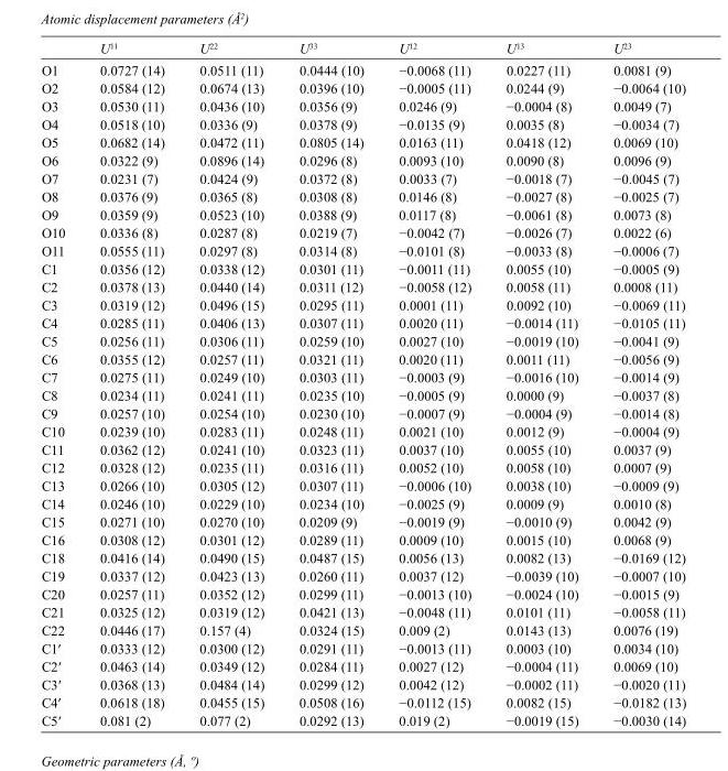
<table><thead><tr><td></td><td>U<sup>11</sup></td><td>U<sup>22</sup></td><td>U<sup>33</sup></td><td>U<sup>12</sup></td><td>U<sup>13</sup></td><td>U<sup>23</sup></td></tr></thead><tbody><tr><td>O1</td><td>0.0727 (14)</td><td>0.0511 (11)</td><td>0.0444 (10)</td><td>−0.0068 (11)</td><td>0.0227 (11)</td><td>0.0081 (9)</td></tr><tr><td>O2</td><td>0.0584 (12)</td><td>0.0674 (13)</td><td>0.0396 (10)</td><td>−0.0005 (11)</td><td>0.0244 (9)</td><td>−0.0064 (10)</td></tr><tr><td>O3</td><td>0.0530 (11)</td><td>0.0436 (10)</td><td>0.0356 (9)</td><td>0.0246 (9)</td><td>−0.0004 (8)</td><td>0.0049 (7)</td></tr><tr><td>O4</td><td>0.0518 (10)</td><td>0.0336 (9)</td><td>0.0378 (9)</td><td>−0.0135 (9)</td><td>0.0035 (8)</td><td>−0.0034 (7)</td></tr><tr><td>O5</td><td>0.0682 (14)</td><td>0.0472 (11)</td><td>0.0805 (14)</td><td>0.0163 (11)</td><td>0.0418 (12)</td><td>0.0069 (10)</td></tr><tr><td>O6</td><td>0.0322 (9)</td><td>0.0896 (14)</td><td>0.0296 (8)</td><td>0.0093 (10)</td><td>0.0090 (8)</td><td>0.0096 (9)</td></tr><tr><td>O7</td><td>0.0231 (7)</td><td>0.0424 (9)</td><td>0.0372 (8)</td><td>0.0033 (7)</td><td>−0.0018 (7)</td><td>−0.0045 (7)</td></tr><tr><td>O8</td><td>0.0376 (9)</td><td>0.0365 (8)</td><td>0.0308 (8)</td><td>0.0146 (8)</td><td>−0.0027 (8)</td><td>−0.0025 (7)</td></tr><tr><td>O9</td><td>0.0359 (9)</td><td>0.0523 (10)</td><td>0.0388 (9)</td><td>0.0117 (8)</td><td>−0.0061 (8)</td><td>0.0073 (8)</td></tr><tr><td>O10</td><td>0.0336 (8)</td><td>0.0287 (8)</td><td>0.0219 (7)</td><td>−0.0042 (7)</td><td>−0.0026 (7)</td><td>0.0022 (6)</td></tr><tr><td>O11</td><td>0.0555 (11)</td><td>0.0297 (8)</td><td>0.0314 (8)</td><td>−0.0101 (8)</td><td>−0.0033 (8)</td><td>−0.0006 (7)</td></tr><tr><td>C1</td><td>0.0356 (12)</td><td>0.0338 (12)</td><td>0.0301 (11)</td><td>−0.0011 (11)</td><td>0.0055 (10)</td><td>−0.0005 (9)</td></tr><tr><td>C2</td><td>0.0378 (13)</td><td>0.0440 (14)</td><td>0.0311 (12)</td><td>−0.0058 (12)</td><td>0.0058 (11)</td><td>0.0008 (11)</td></tr><tr><td>C3</td><td>0.0319 (12)</td><td>0.0496 (15)</td><td>0.0295 (11)</td><td>0.0001 (11)</td><td>0.0092 (10)</td><td>−0.0069 (11)</td></tr><tr><td>C4</td><td>0.0285 (11)</td><td>0.0406 (13)</td><td>0.0307 (11)</td><td>0.0020 (11)</td><td>−0.0014 (11)</td><td>−0.0105 (11)</td></tr><tr><td>C5</td><td>0.0256 (11)</td><td>0.0306 (11)</td><td>0.0259 (10)</td><td>0.0027 (10)</td><td>−0.0019 (10)</td><td>−0.0041 (9)</td></tr><tr><td>C6</td><td>0.0355 (12)</td><td>0.0257 (11)</td><td>0.0321 (11)</td><td>0.0020 (11)</td><td>0.0011 (11)</td><td>−0.0056 (9)</td></tr><tr><td>C7</td><td>0.0275 (11)</td><td>0.0249 (10)</td><td>0.0303 (11)</td><td>−0.0003 (9)</td><td>−0.0016 (10)</td><td>−0.0014 (9)</td></tr><tr><td>C8</td><td>0.0234 (11)</td><td>0.0241 (11)</td><td>0.0235 (10)</td><td>−0.0005 (9)</td><td>0.0000 (9)</td><td>−0.0037 (8)</td></tr><tr><td>C9</td><td>0.0257 (10)</td><td>0.0254 (10)</td><td>0.0230 (10)</td><td>−0.0007 (9)</td><td>−0.0004 (9)</td><td>−0.0014 (8)</td></tr><tr><td>C10</td><td>0.0239 (10)</td><td>0.0283 (11)</td><td>0.0248 (11)</td><td>0.0021 (10)</td><td>0.0012 (9)</td><td>−0.0004 (9)</td></tr><tr><td>C11</td><td>0.0362 (12)</td><td>0.0241 (10)</td><td>0.0323 (11)</td><td>0.0037 (10)</td><td>0.0055 (10)</td><td>0.0037 (9)</td></tr><tr><td>C12</td><td>0.0328 (12)</td><td>0.0235 (11)</td><td>0.0316 (11)</td><td>0.0052 (10)</td><td>0.0058 (10)</td><td>0.0007 (9)</td></tr><tr><td>C13</td><td>0.0266 (10)</td><td>0.0305 (12)</td><td>0.0307 (11)</td><td>−0.0006 (10)</td><td>0.0038 (10)</td><td>−0.0009 (9)</td></tr><tr><td>C14</td><td>0.0246 (10)</td><td>0.0229 (10)</td><td>0.0234 (10)</td><td>−0.0025 (9)</td><td>0.0009 (9)</td><td>0.0010 (8)</td></tr><tr><td>C15</td><td>0.0271 (10)</td><td>0.0270 (10)</td><td>0.0209 (9)</td><td>−0.0019 (9)</td><td>−0.0010 (9)</td><td>0.0042 (9)</td></tr><tr><td>C16</td><td>0.0308 (12)</td><td>0.0301 (12)</td><td>0.0289 (11)</td><td>0.0009 (10)</td><td>0.0015 (10)</td><td>0.0068 (9)</td></tr><tr><td>C18</td><td>0.0416 (14)</td><td>0.0490 (15)</td><td>0.0487 (15)</td><td>0.0056 (13)</td><td>0.0082 (13)</td><td>−0.0169 (12)</td></tr><tr><td>C19</td><td>0.0337 (12)</td><td>0.0423 (13)</td><td>0.0260 (11)</td><td>0.0037 (12)</td><td>−0.0039 (10)</td><td>−0.0007 (10)</td></tr><tr><td>C20</td><td>0.0257 (11)</td><td>0.0352 (12)</td><td>0.0299 (11)</td><td>−0.0013 (10)</td><td>−0.0024 (10)</td><td>−0.0015 (9)</td></tr><tr><td>C21</td><td>0.0325 (12)</td><td>0.0319 (12)</td><td>0.0421 (13)</td><td>−0.0048 (11)</td><td>0.0101 (11)</td><td>−0.0058 (11)</td></tr><tr><td>C22</td><td>0.0446 (17)</td><td>0.157 (4)</td><td>0.0324 (15)</td><td>0.009 (2)</td><td>0.0143 (13)</td><td>0.0076 (19)</td></tr><tr><td>C1′</td><td>0.0333 (12)</td><td>0.0300 (12)</td><td>0.0291 (11)</td><td>−0.0013 (11)</td><td>0.0003 (10)</td><td>0.0034 (10)</td></tr><tr><td>C2′</td><td>0.0463 (14)</td><td>0.0349 (12)</td><td>0.0284 (11)</td><td>0.0027 (12)</td><td>−0.0004 (11)</td><td>0.0069 (10)</td></tr><tr><td>C3′</td><td>0.0368 (13)</td><td>0.0484 (14)</td><td>0.0299 (12)</td><td>0.0042 (12)</td><td>−0.0002 (11)</td><td>−0.0020 (11)</td></tr><tr><td>C4′</td><td>0.0618 (18)</td><td>0.0455 (15)</td><td>0.0508 (16)</td><td>−0.0112 (15)</td><td>0.0082 (15)</td><td>−0.0182 (13)</td></tr><tr><td>C5′</td><td>0.081 (2)</td><td>0.077 (2)</td><td>0.0292 (13)</td><td>0.019 (2)</td><td>−0.0019 (15)</td><td>−0.0030 (14)</td></tr></tbody></table>